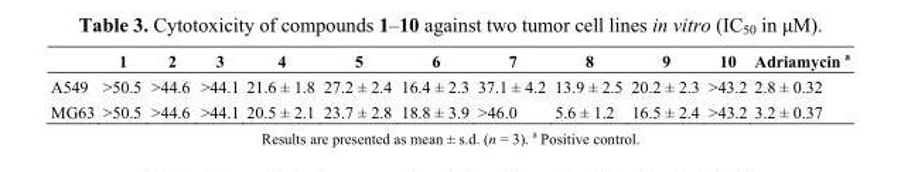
<table><thead><tr><td></td><td>1</td><td>2</td><td>3</td><td>4</td><td>5</td><td>6</td><td>7</td><td>8</td><td>9</td><td>10</td><td>Adriamycin <sup>a</sup></td></tr></thead><tbody><tr><td>A549</td><td>&gt;50.5</td><td>&gt;44.6</td><td>&gt;44.1</td><td>21.6 ± 1.8</td><td>27.2 ± 2.4</td><td>16.4 ± 2.3</td><td>37.1 ± 4.2</td><td>13.9 ± 2.5</td><td>20.2 ± 2.3</td><td>&gt;43.2</td><td>2.8 ± 0.32</td></tr><tr><td>MG63</td><td>&gt;50.5</td><td>&gt;44.6</td><td>&gt;44.1</td><td>20.5 ± 2.1</td><td>23.7 ± 2.8</td><td>18.8 ± 3.9</td><td>&gt;46.0</td><td>5.6 ± 1.2</td><td>16.5 ± 2.4</td><td>&gt;43.2</td><td>3.2 ± 0.37</td></tr></tbody></table>